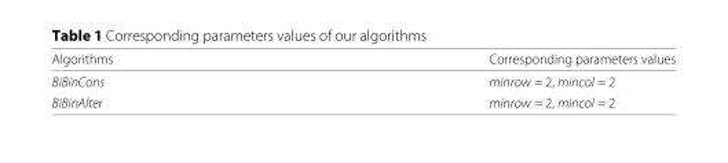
<table><thead><tr><td>Algorithms</td><td>Corresponding parameters values</td></tr></thead><tbody><tr><td>BiBinCons</td><td>minrow = 2, mincol = 2</td></tr><tr><td>BiBinAlter</td><td>minrow = 2, mincol = 2</td></tr></tbody></table>